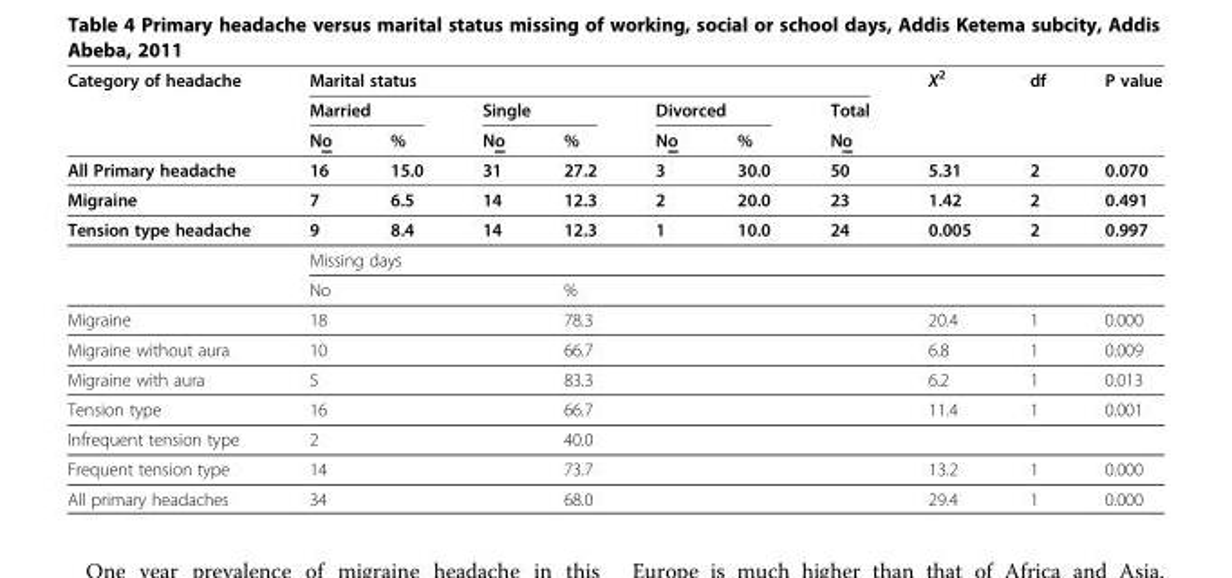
<table><thead><tr><td rowspan="3">Category of headache</td><td colspan="7">Marital status</td><td rowspan="3">X<sup>2</sup></td><td rowspan="3">df</td><td rowspan="3">P value</td></tr><tr><td colspan="2">Married</td><td colspan="2">Single</td><td colspan="2">Divorced</td><td rowspan="2">Total No</td></tr><tr><td>No</td><td>%</td><td>No</td><td>%</td><td>No</td><td>%</td></tr></thead><tbody><tr><td>All Primary headache</td><td>16</td><td>15.0</td><td>31</td><td>27.2</td><td>3</td><td>30.0</td><td>50</td><td>5.31</td><td>2</td><td>0.070</td></tr><tr><td>Migraine</td><td>7</td><td>6.5</td><td>14</td><td>12.3</td><td>2</td><td>20.0</td><td>23</td><td>1.42</td><td>2</td><td>0.491</td></tr><tr><td rowspan="3">Tension type headache</td><td>9</td><td>8.4</td><td>14</td><td>12.3</td><td>1</td><td>10.0</td><td>24</td><td>0.005</td><td>2</td><td>0.997</td></tr><tr><td colspan="10">Missing days</td></tr><tr><td>No</td><td></td><td></td><td>%</td><td></td><td></td><td></td><td></td><td></td><td></td></tr><tr><td>Migraine</td><td>18</td><td></td><td></td><td>78.3</td><td></td><td></td><td></td><td>20.4</td><td>1</td><td>0.000</td></tr><tr><td>Migraine without aura</td><td>10</td><td></td><td></td><td>66.7</td><td></td><td></td><td></td><td>6.8</td><td>1</td><td>0.009</td></tr><tr><td>Migraine with aura</td><td>5</td><td></td><td></td><td>83.3</td><td></td><td></td><td></td><td>6.2</td><td>1</td><td>0.013</td></tr><tr><td>Tension type</td><td>16</td><td></td><td></td><td>66.7</td><td></td><td></td><td></td><td>11.4</td><td>1</td><td>0.001</td></tr><tr><td>Infrequent tension type</td><td>2</td><td></td><td></td><td>40.0</td><td></td><td></td><td></td><td></td><td></td><td></td></tr><tr><td>Frequent tension type</td><td>14</td><td></td><td></td><td>73.7</td><td></td><td></td><td></td><td>13.2</td><td>1</td><td>0.000</td></tr><tr><td>All primary headaches</td><td>34</td><td></td><td></td><td>68.0</td><td></td><td></td><td></td><td>29.4</td><td>1</td><td>0.000</td></tr></tbody></table>